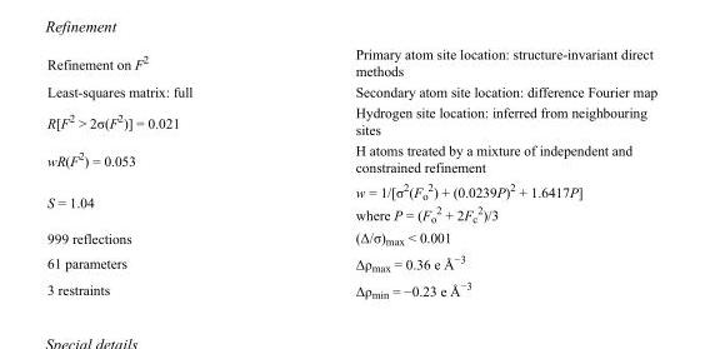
<table><tbody><tr><td>Refinement on F<sup>2</sup></td><td>Primary atom site location: structure-invariant direct methods</td></tr><tr><td>Least-squares matrix: full</td><td>Secondary atom site location: difference Fourier map</td></tr><tr><td>R[F<sup>2</sup> &gt; 2σ(F<sup>2</sup>)] = 0.021</td><td>Hydrogen site location: inferred from neighbouring sites</td></tr><tr><td>wR(F<sup>2</sup>) = 0.053</td><td>H atoms treated by a mixture of independent and constrained refinement</td></tr><tr><td>S = 1.04</td><td>w = 1/[σ<sup>2</sup>(F<sub>o</sub> <sup>2</sup>) + (0.0239P)<sup>2</sup> + 1.6417P] where P = (F<sub>o</sub> <sup>2</sup> + 2F<sub>c</sub> <sup>2</sup>)/3</td></tr><tr><td>999 reflections</td><td>(Δ/σ)<sub>max</sub> &lt; 0.001</td></tr><tr><td>61 parameters</td><td>Δρ<sub>max</sub> = 0.36 e Å<sup>−3</sup></td></tr><tr><td>3 restraints</td><td>Δρ<sub>min</sub> = −0.23 e Å<sup>−3</sup></td></tr></tbody></table>